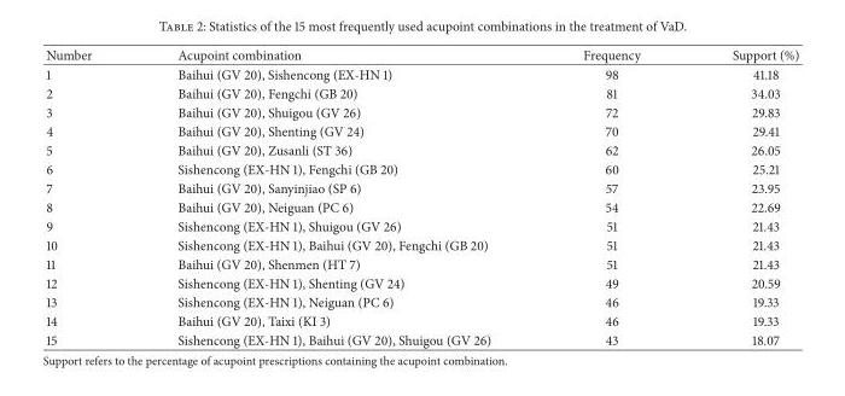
<table><thead><tr><td>Number</td><td>Acupoint combination</td><td>Frequency</td><td>Support (%)</td></tr></thead><tbody><tr><td>1</td><td>Baihui (GV 20), Sishencong (EX-HN 1)</td><td>98</td><td>41.18</td></tr><tr><td>2</td><td>Baihui (GV 20), Fengchi (GB 20)</td><td>81</td><td>34.03</td></tr><tr><td>3</td><td>Baihui (GV 20), Shuigou (GV 26)</td><td>72</td><td>29.83</td></tr><tr><td>4</td><td>Baihui (GV 20), Shenting (GV 24)</td><td>70</td><td>29.41</td></tr><tr><td>5</td><td>Baihui (GV 20), Zusanli (ST 36)</td><td>62</td><td>26.05</td></tr><tr><td>6</td><td>Sishencong (EX-HN 1), Fengchi (GB 20)</td><td>60</td><td>25.21</td></tr><tr><td>7</td><td>Baihui (GV 20), Sanyinjiao (SP 6)</td><td>57</td><td>23.95</td></tr><tr><td>8</td><td>Baihui (GV 20), Neiguan (PC 6)</td><td>54</td><td>22.69</td></tr><tr><td>9</td><td>Sishencong (EX-HN 1), Shuigou (GV 26)</td><td>51</td><td>21.43</td></tr><tr><td>10</td><td>Sishencong (EX-HN 1), Baihui (GV 20), Fengchi (GB 20)</td><td>51</td><td>21.43</td></tr><tr><td>11</td><td>Baihui (GV 20), Shenmen (HT 7)</td><td>51</td><td>21.43</td></tr><tr><td>12</td><td>Sishencong (EX-HN 1), Shenting (GV 24)</td><td>49</td><td>20.59</td></tr><tr><td>13</td><td>Sishencong (EX-HN 1), Neiguan (PC 6)</td><td>46</td><td>19.33</td></tr><tr><td>14</td><td>Baihui (GV 20), Taixi (KI 3)</td><td>46</td><td>19.33</td></tr><tr><td>15</td><td>Sishencong (EX-HN 1), Baihui (GV 20), Shuigou (GV 26)</td><td>43</td><td>18.07</td></tr></tbody></table>